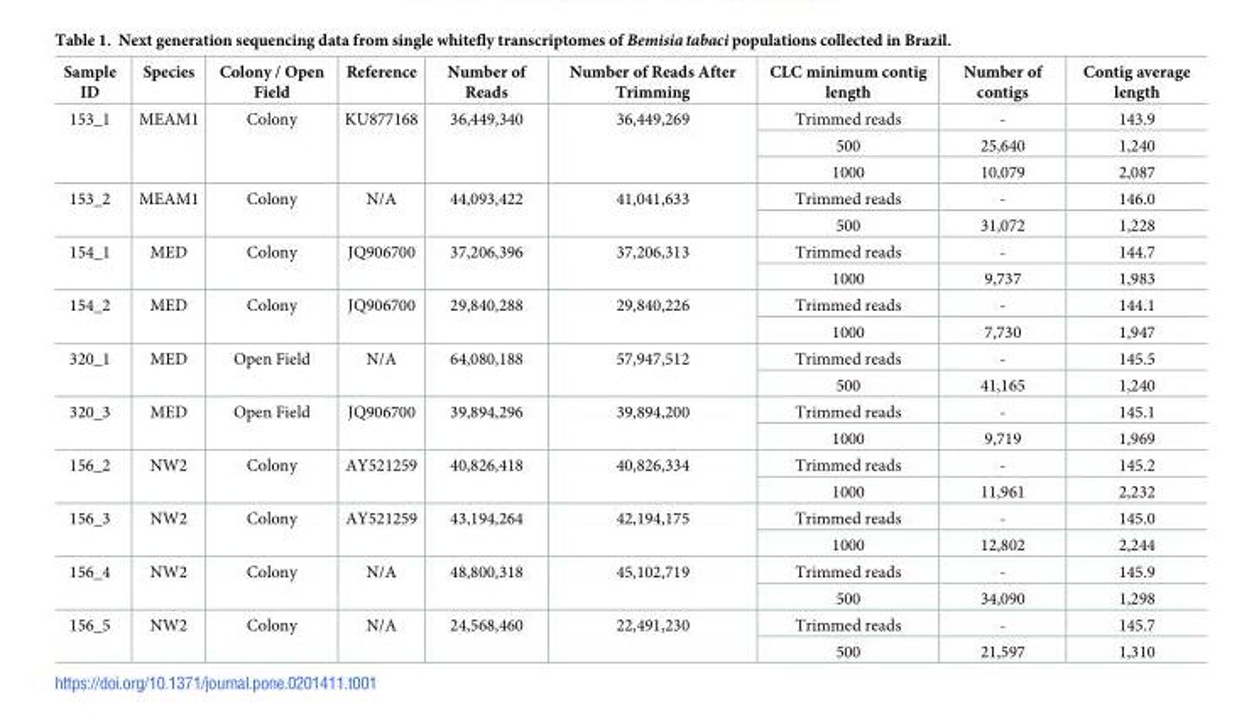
<table><thead><tr><td>Sample ID</td><td>Species</td><td>Colony / Open Field</td><td>Reference</td><td>Number of Reads</td><td>Number of Reads After Trimming</td><td>CLC minimum contig length</td><td>Number of contigs</td><td>Contig average length</td></tr></thead><tbody><tr><td rowspan="3">153_1</td><td rowspan="3">MEAM1</td><td rowspan="3">Colony</td><td rowspan="3">KU877168</td><td rowspan="3">36,449,340</td><td rowspan="3">36,449,269</td><td>Trimmed reads</td><td>-</td><td>143.9</td></tr><tr><td>500</td><td>25,640</td><td>1,240</td></tr><tr><td>1000</td><td>10,079</td><td>2,087</td></tr><tr><td rowspan="2">153_2</td><td rowspan="2">MEAM1</td><td rowspan="2">Colony</td><td rowspan="2">N/A</td><td rowspan="2">44,093,422</td><td rowspan="2">41,041,633</td><td>Trimmed reads</td><td>-</td><td>146.0</td></tr><tr><td>500</td><td>31,072</td><td>1,228</td></tr><tr><td rowspan="2">154_1</td><td rowspan="2">MED</td><td rowspan="2">Colony</td><td rowspan="2">JQ906700</td><td rowspan="2">37,206,396</td><td rowspan="2">37,206,313</td><td>Trimmed reads</td><td>-</td><td>144.7</td></tr><tr><td>1000</td><td>9,737</td><td>1,983</td></tr><tr><td rowspan="2">154_2</td><td rowspan="2">MED</td><td rowspan="2">Colony</td><td rowspan="2">JQ906700</td><td rowspan="2">29,840,288</td><td rowspan="2">29,840,226</td><td>Trimmed reads</td><td>-</td><td>144.1</td></tr><tr><td>1000</td><td>7,730</td><td>1,947</td></tr><tr><td rowspan="2">320_1</td><td rowspan="2">MED</td><td rowspan="2">Open Field</td><td rowspan="2">N/A</td><td rowspan="2">64,080,188</td><td rowspan="2">57,947,512</td><td>Trimmed reads</td><td>-</td><td>145.5</td></tr><tr><td>500</td><td>41,165</td><td>1,240</td></tr><tr><td rowspan="2">320_3</td><td rowspan="2">MED</td><td rowspan="2">Open Field</td><td rowspan="2">JQ906700</td><td rowspan="2">39,894,296</td><td rowspan="2">39,894,200</td><td>Trimmed reads</td><td>-</td><td>145.1</td></tr><tr><td>1000</td><td>9,719</td><td>1,969</td></tr><tr><td rowspan="2">156_2</td><td rowspan="2">NW2</td><td rowspan="2">Colony</td><td rowspan="2">AY521259</td><td rowspan="2">40,826,418</td><td rowspan="2">40,826,334</td><td>Trimmed reads</td><td>-</td><td>145.2</td></tr><tr><td>1000</td><td>11,961</td><td>2,232</td></tr><tr><td rowspan="2">156_3</td><td rowspan="2">NW2</td><td rowspan="2">Colony</td><td rowspan="2">AY521259</td><td rowspan="2">43,194,264</td><td rowspan="2">42,194,175</td><td>Trimmed reads</td><td>-</td><td>145.0</td></tr><tr><td>1000</td><td>12,802</td><td>2,244</td></tr><tr><td rowspan="2">156_4</td><td rowspan="2">NW2</td><td rowspan="2">Colony</td><td rowspan="2">N/A</td><td rowspan="2">48,800,318</td><td rowspan="2">45,102,719</td><td>Trimmed reads</td><td>-</td><td>145.9</td></tr><tr><td>500</td><td>34,090</td><td>1,298</td></tr><tr><td rowspan="2">156_5</td><td rowspan="2">NW2</td><td rowspan="2">Colony</td><td rowspan="2">N/A</td><td rowspan="2">24,568,460</td><td rowspan="2">22,491,230</td><td>Trimmed reads</td><td>-</td><td>145.7</td></tr><tr><td>500</td><td>21,597</td><td>1,310</td></tr></tbody></table>